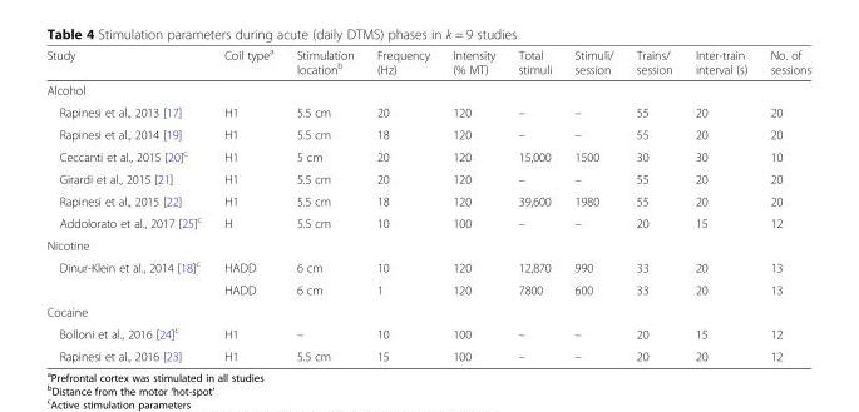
<table><thead><tr><td>Study</td><td>Coil type<sup>a</sup></td><td>Stimulation location<sup>b</sup></td><td>Frequency (Hz)</td><td>Intensity (% MT)</td><td>Total stimuli</td><td>Stimuli/ session</td><td>Trains/ session</td><td>Inter-train interval (s)</td><td>No. of sessions</td></tr></thead><tbody><tr><td colspan="10">Alcohol</td></tr><tr><td>Rapinesi et al., 2013 [17]</td><td>H1</td><td>5.5 cm</td><td>20</td><td>120</td><td>–</td><td>–</td><td>55</td><td>20</td><td>20</td></tr><tr><td>Rapinesi et al., 2014 [19]</td><td>H1</td><td>5.5 cm</td><td>18</td><td>120</td><td>–</td><td>–</td><td>55</td><td>20</td><td>20</td></tr><tr><td>Ceccanti et al., 2015 [20]<sup>c</sup></td><td>H1</td><td>5 cm</td><td>20</td><td>120</td><td>15,000</td><td>1500</td><td>30</td><td>30</td><td>10</td></tr><tr><td>Girardi et al., 2015 [21]</td><td>H1</td><td>5.5 cm</td><td>20</td><td>120</td><td>–</td><td>–</td><td>55</td><td>20</td><td>20</td></tr><tr><td>Rapinesi et al., 2015 [22]</td><td>H1</td><td>5.5 cm</td><td>18</td><td>120</td><td>39,600</td><td>1980</td><td>55</td><td>20</td><td>20</td></tr><tr><td>Addolorato et al., 2017 [25]<sup>c</sup></td><td>H</td><td>5.5 cm</td><td>10</td><td>100</td><td>–</td><td>–</td><td>20</td><td>15</td><td>12</td></tr><tr><td colspan="10">Nicotine</td></tr><tr><td rowspan="2">Dinur-Klein et al., 2014 [18]<sup>c</sup></td><td>HADD</td><td>6 cm</td><td>10</td><td>120</td><td>12,870</td><td>990</td><td>33</td><td>20</td><td>13</td></tr><tr><td>HADD</td><td>6 cm</td><td>1</td><td>120</td><td>7800</td><td>600</td><td>33</td><td>20</td><td>13</td></tr><tr><td colspan="10">Cocaine</td></tr><tr><td>Bolloni et al., 2016 [24]<sup>c</sup></td><td>H1</td><td>–</td><td>10</td><td>100</td><td>–</td><td>–</td><td>20</td><td>15</td><td>12</td></tr><tr><td>Rapinesi et al., 2016 [23]</td><td>H1</td><td>5.5 cm</td><td>15</td><td>100</td><td>–</td><td>–</td><td>20</td><td>20</td><td>12</td></tr></tbody></table>